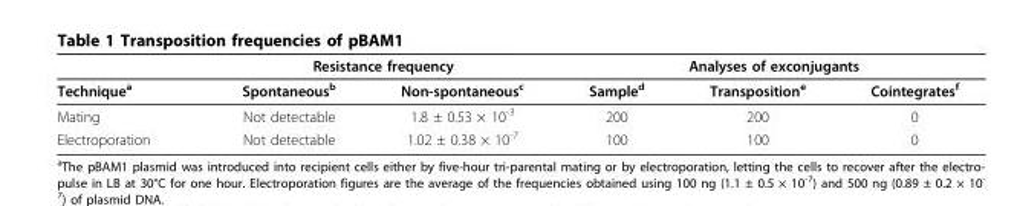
<table><thead><tr><td rowspan="2">Technique<sup>a</sup></td><td colspan="2">Resistance frequency</td><td colspan="3">Analyses of exconjugants</td></tr><tr><td>Spontaneous<sup>b</sup></td><td>Non-spontaneous<sup>c</sup></td><td>Sample<sup>d</sup></td><td>Transposition<sup>e</sup></td><td>Cointegrates<sup>f</sup></td></tr></thead><tbody><tr><td>Mating</td><td>Not detectable</td><td>1.8 ± 0.53 × 10<sup>-3</sup></td><td>200</td><td>200</td><td>0</td></tr><tr><td>Electroporation</td><td>Not detectable</td><td>1.02 ± 0.38 × 10<sup>-7</sup></td><td>100</td><td>100</td><td>0</td></tr></tbody></table>